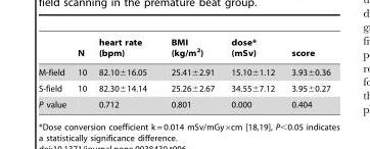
<table><thead><tr><td></td><td>N</td><td>heart rate (bpm)</td><td>BMI (kg/m<sup>2</sup>)</td><td>dose* (mSv)</td><td>score</td></tr></thead><tbody><tr><td>M-field</td><td>10</td><td>82.10±16.05</td><td>25.41±2.91</td><td>15.10±1.12</td><td>3.93±0.36</td></tr><tr><td>S-field</td><td>10</td><td>82.30±14.14</td><td>25.26±2.67</td><td>34.55±7.12</td><td>3.95±0.27</td></tr><tr><td>P value</td><td></td><td>0.712</td><td>0.801</td><td>0.000</td><td>0.404</td></tr></tbody></table>